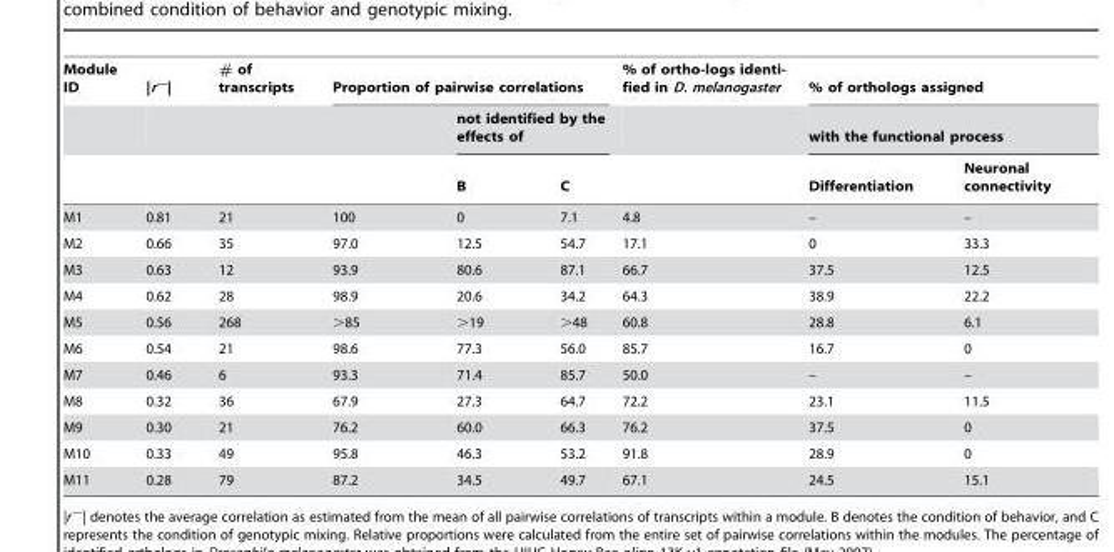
<table><thead><tr><td rowspan="3">Module ID</td><td rowspan="3">|r<sup>—</sup>|</td><td rowspan="3"># of transcripts</td><td colspan="3">Proportion of pairwise correlations</td><td rowspan="3">% of ortho-logs identi- fied in D. melanogaster</td><td rowspan="2" colspan="2">% of orthologs assigned with the functional process</td></tr><tr><td rowspan="2"></td><td colspan="2">not identified by the effects of</td></tr><tr><td>B</td><td>C</td><td>Differentiation</td><td>Neuronal connectivity</td></tr></thead><tbody><tr><td>M1</td><td>0.81</td><td>21</td><td>100</td><td>0</td><td>7.1</td><td>4.8</td><td>–</td><td>–</td></tr><tr><td>M2</td><td>0.66</td><td>35</td><td>97.0</td><td>12.5</td><td>54.7</td><td>17.1</td><td>0</td><td>33.3</td></tr><tr><td>M3</td><td>0.63</td><td>12</td><td>93.9</td><td>80.6</td><td>87.1</td><td>66.7</td><td>37.5</td><td>12.5</td></tr><tr><td>M4</td><td>0.62</td><td>28</td><td>98.9</td><td>20.6</td><td>34.2</td><td>64.3</td><td>38.9</td><td>22.2</td></tr><tr><td>M5</td><td>0.56</td><td>268</td><td>&gt;85</td><td>&gt;19</td><td>&gt;48</td><td>60.8</td><td>28.8</td><td>6.1</td></tr><tr><td>M6</td><td>0.54</td><td>21</td><td>98.6</td><td>77.3</td><td>56.0</td><td>85.7</td><td>16.7</td><td>0</td></tr><tr><td>M7</td><td>0.46</td><td>6</td><td>93.3</td><td>71.4</td><td>85.7</td><td>50.0</td><td>–</td><td>–</td></tr><tr><td>M8</td><td>0.32</td><td>36</td><td>67.9</td><td>27.3</td><td>64.7</td><td>72.2</td><td>23.1</td><td>11.5</td></tr><tr><td>M9</td><td>0.30</td><td>21</td><td>76.2</td><td>60.0</td><td>66.3</td><td>76.2</td><td>37.5</td><td>0</td></tr><tr><td>M10</td><td>0.33</td><td>49</td><td>95.8</td><td>46.3</td><td>53.2</td><td>91.8</td><td>28.9</td><td>0</td></tr><tr><td>M11</td><td>0.28</td><td>79</td><td>87.2</td><td>34.5</td><td>49.7</td><td>67.1</td><td>24.5</td><td>15.1</td></tr></tbody></table>